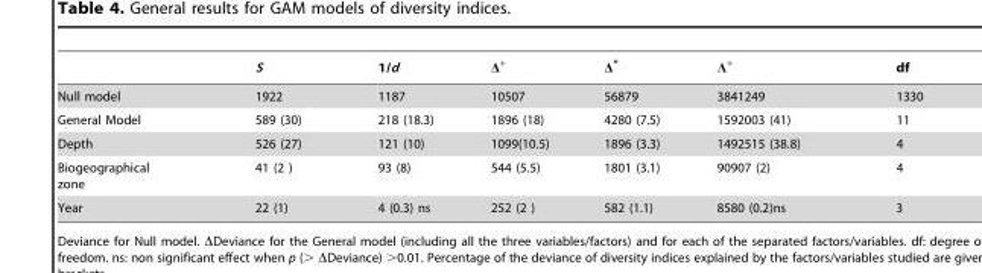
<table><thead><tr><td></td><td>S</td><td>1/d</td><td>Δ<sup>+</sup></td><td>Δ*</td><td>Λ<sup>+</sup></td><td>df</td></tr></thead><tbody><tr><td>Null model</td><td>1922</td><td>1187</td><td>10507</td><td>56879</td><td>3841249</td><td>1330</td></tr><tr><td>General Model</td><td>589 (30)</td><td>218 (18.3)</td><td>1896 (18)</td><td>4280 (7.5)</td><td>1592003 (41)</td><td>11</td></tr><tr><td>Depth</td><td>526 (27)</td><td>121 (10)</td><td>1099(10.5)</td><td>1896 (3.3)</td><td>1492515 (38.8)</td><td>4</td></tr><tr><td>Biogeographical zone</td><td>41 (2 )</td><td>93 (8)</td><td>544 (5.5)</td><td>1801 (3.1)</td><td>90907 (2)</td><td>4</td></tr><tr><td>Year</td><td>22 (1)</td><td>4 (0.3) ns</td><td>252 (2 )</td><td>582 (1.1)</td><td>8580 (0.2)ns</td><td>3</td></tr></tbody></table>